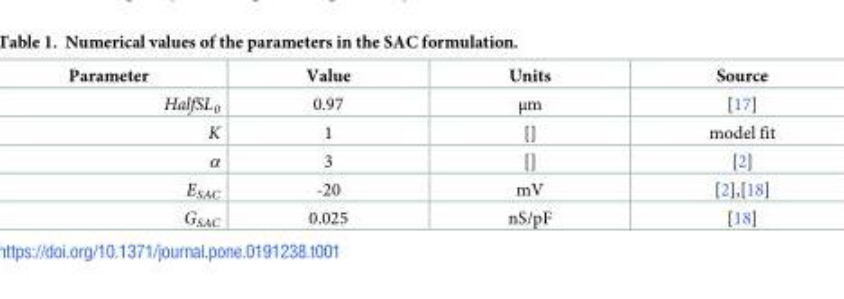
<table><thead><tr><td>Parameter</td><td>Value</td><td>Units</td><td>Source</td></tr></thead><tbody><tr><td>HalfSL<sub>0</sub></td><td>0.97</td><td>μm</td><td>[17]</td></tr><tr><td>K</td><td>1</td><td>[]</td><td>model fit</td></tr><tr><td>α</td><td>3</td><td>[]</td><td>[2]</td></tr><tr><td>E<sub>SAC</sub></td><td>-20</td><td>mV</td><td>[2],[18]</td></tr><tr><td>G<sub>SAC</sub></td><td>0.025</td><td>nS/pF</td><td>[18]</td></tr></tbody></table>